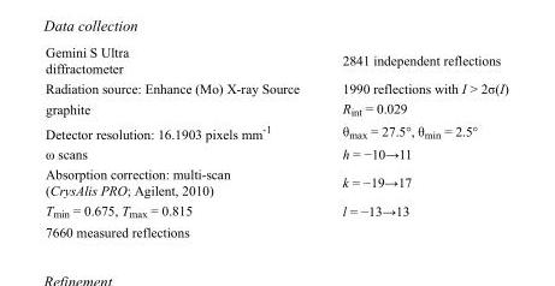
<table><tbody><tr><td>Gemini S Ultra diffractometer</td><td>2841 independent reflections</td></tr><tr><td>Radiation source: Enhance (Mo) X-ray Source</td><td>1990 reflections with I &gt; 2σ(I)</td></tr><tr><td>graphite</td><td>R<sub>int</sub> = 0.029</td></tr><tr><td>Detector resolution: 16.1903 pixels mm<sup>-1</sup></td><td>θ<sub>max</sub> = 27.5°, θ<sub>min</sub> = 2.5°</td></tr><tr><td>ω scans</td><td>h = −10→11</td></tr><tr><td>Absorption correction: multi-scan (CrysAlis PRO; Agilent, 2010)</td><td>k = −19→17</td></tr><tr><td>T<sub>min</sub> = 0.675, T<sub>max</sub> = 0.815</td><td>l = −13→13</td></tr><tr><td>7660 measured reflections</td><td></td></tr></tbody></table>